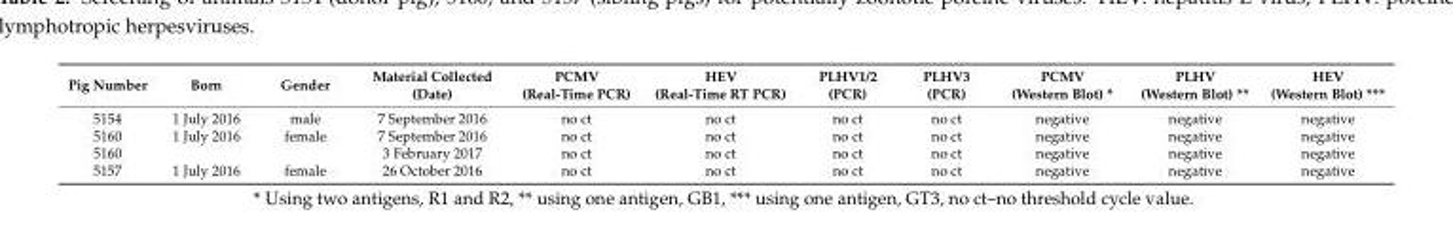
<table><thead><tr><td>Pig Number</td><td>Born</td><td>Gender</td><td>Material Collected (Date)</td><td>PCMV (Real-Time PCR)</td><td>HEV (Real-Time RT PCR)</td><td>PLHV1/2 (PCR)</td><td>PLHV3 (PCR)</td><td>PCMV (Western Blot) *</td><td>PLHV (Western Blot) **</td><td>HEV (Western Blot) ***</td></tr></thead><tbody><tr><td>5154</td><td>1 July 2016</td><td>male</td><td>7 September 2016</td><td>no ct</td><td>no ct</td><td>no ct</td><td>no ct</td><td>negative</td><td>negative</td><td>negative</td></tr><tr><td>5160</td><td>1 July 2016</td><td>female</td><td>7 September 2016</td><td>no ct</td><td>no ct</td><td>no ct</td><td>no ct</td><td>negative</td><td>negative</td><td>negative</td></tr><tr><td>5160</td><td></td><td></td><td>3 February 2017</td><td>no ct</td><td>no ct</td><td>no ct</td><td>no ct</td><td>negative</td><td>negative</td><td>negative</td></tr><tr><td>5157</td><td>1 July 2016</td><td>female</td><td>26 October 2016</td><td>no ct</td><td>no ct</td><td>no ct</td><td>no ct</td><td>negative</td><td>negative</td><td>negative</td></tr></tbody></table>